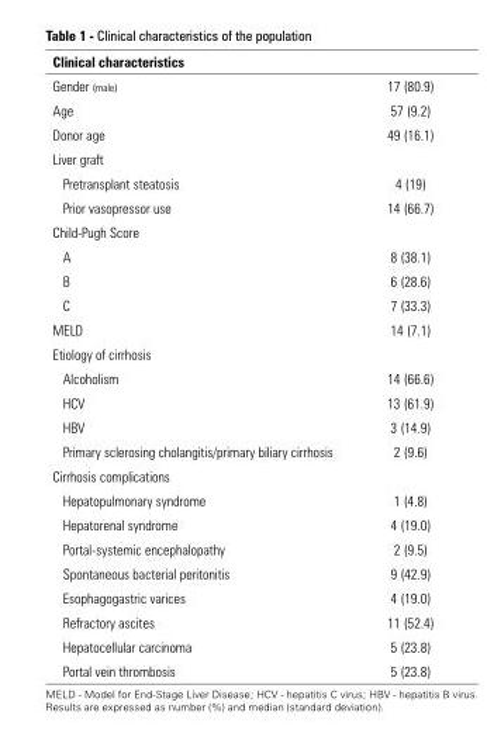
<table><thead><tr><td>Clinical characteristics</td><td></td></tr></thead><tbody><tr><td>Gender (male)</td><td>17 (80.9)</td></tr><tr><td>Age</td><td>57 (9.2)</td></tr><tr><td>Donor age</td><td>49 (16.1)</td></tr><tr><td colspan="2">Liver graft</td></tr><tr><td>Pretransplant steatosis</td><td>4 (19)</td></tr><tr><td>Prior vasopressor use</td><td>14 (66.7)</td></tr><tr><td colspan="2">Child-Pugh Score</td></tr><tr><td>A</td><td>8 (38.1)</td></tr><tr><td>B</td><td>6 (28.6)</td></tr><tr><td>C</td><td>7 (33.3)</td></tr><tr><td>MELD</td><td>14 (7.1)</td></tr><tr><td colspan="2">Etiology of cirrhosis</td></tr><tr><td>Alcoholism</td><td>14 (66.6)</td></tr><tr><td>HCV</td><td>13 (61.9)</td></tr><tr><td>HBV</td><td>3 (14.9)</td></tr><tr><td>Primary sclerosing cholangitis/primary biliary cirrhosis</td><td>2 (9.6)</td></tr><tr><td colspan="2">Cirrhosis complications</td></tr><tr><td>Hepatopulmonary syndrome</td><td>1 (4.8)</td></tr><tr><td>Hepatorenal syndrome</td><td>4 (19.0)</td></tr><tr><td>Portal-systemic encephalopathy</td><td>2 (9.5)</td></tr><tr><td>Spontaneous bacterial peritonitis</td><td>9 (42.9)</td></tr><tr><td>Esophagogastric varices</td><td>4 (19.0)</td></tr><tr><td>Refractory ascites</td><td>11 (52.4)</td></tr><tr><td>Hepatocellular carcinoma</td><td>5 (23.8)</td></tr><tr><td>Portal vein thrombosis</td><td>5 (23.8)</td></tr></tbody></table>